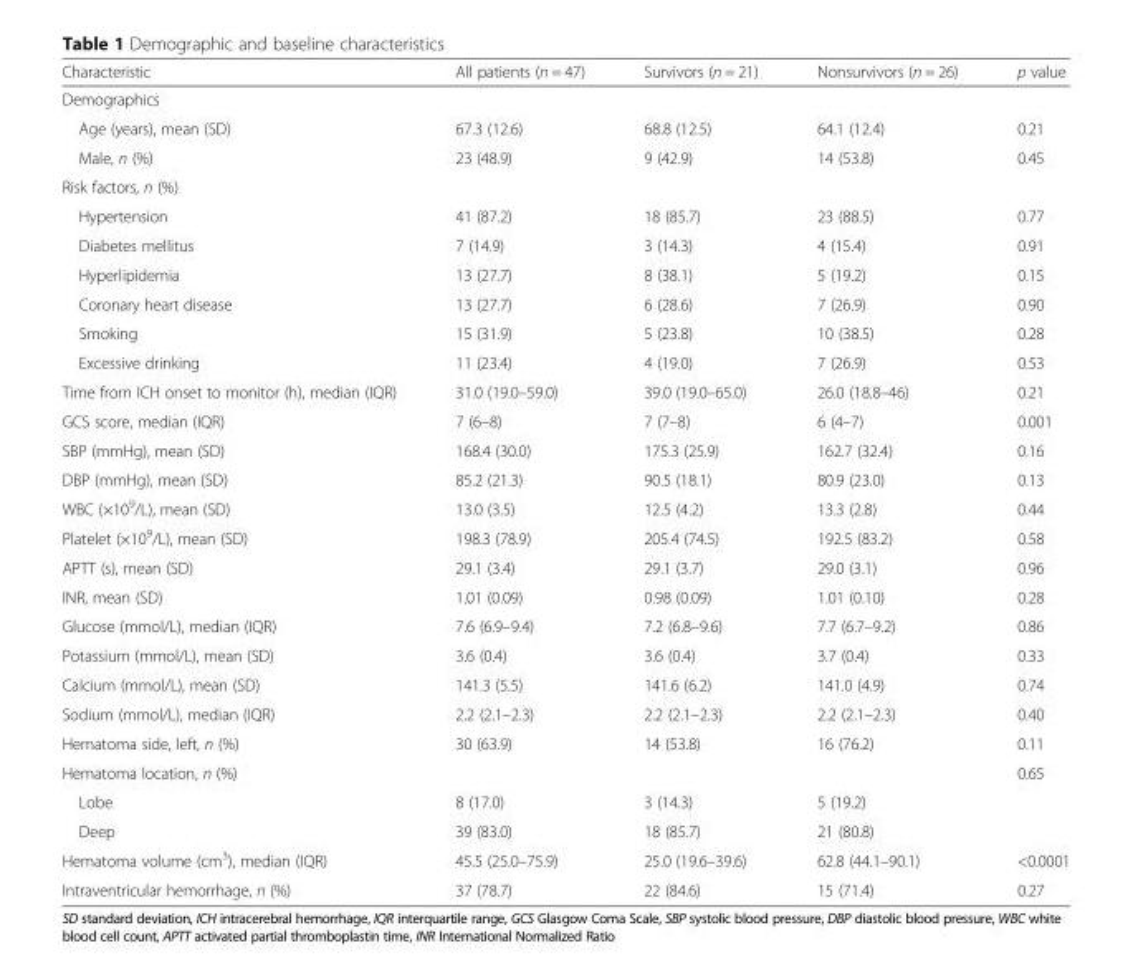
<table><thead><tr><td>Characteristic</td><td>All patients (n = 47)</td><td>Survivors (n = 21)</td><td>Nonsurvivors (n = 26)</td><td>p value</td></tr></thead><tbody><tr><td colspan="5">Demographics</td></tr><tr><td>Age (years), mean (SD)</td><td>67.3 (12.6)</td><td>68.8 (12.5)</td><td>64.1 (12.4)</td><td>0.21</td></tr><tr><td>Male, n (%)</td><td>23 (48.9)</td><td>9 (42.9)</td><td>14 (53.8)</td><td>0.45</td></tr><tr><td colspan="5">Risk factors, n (%)</td></tr><tr><td>Hypertension</td><td>41 (87.2)</td><td>18 (85.7)</td><td>23 (88.5)</td><td>0.77</td></tr><tr><td>Diabetes mellitus</td><td>7 (14.9)</td><td>3 (14.3)</td><td>4 (15.4)</td><td>0.91</td></tr><tr><td>Hyperlipidemia</td><td>13 (27.7)</td><td>8 (38.1)</td><td>5 (19.2)</td><td>0.15</td></tr><tr><td>Coronary heart disease</td><td>13 (27.7)</td><td>6 (28.6)</td><td>7 (26.9)</td><td>0.90</td></tr><tr><td>Smoking</td><td>15 (31.9)</td><td>5 (23.8)</td><td>10 (38.5)</td><td>0.28</td></tr><tr><td>Excessive drinking</td><td>11 (23.4)</td><td>4 (19.0)</td><td>7 (26.9)</td><td>0.53</td></tr><tr><td>Time from ICH onset to monitor (h), median (IQR)</td><td>31.0 (19.0–59.0)</td><td>39.0 (19.0–65.0)</td><td>26.0 (18.8–46)</td><td>0.21</td></tr><tr><td>GCS score, median (IQR)</td><td>7 (6–8)</td><td>7 (7–8)</td><td>6 (4–7)</td><td>0.001</td></tr><tr><td>SBP (mmHg), mean (SD)</td><td>168.4 (30.0)</td><td>175.3 (25.9)</td><td>162.7 (32.4)</td><td>0.16</td></tr><tr><td>DBP (mmHg), mean (SD)</td><td>85.2 (21.3)</td><td>90.5 (18.1)</td><td>80.9 (23.0)</td><td>0.13</td></tr><tr><td>WBC (×10<sup>9</sup>/L), mean (SD)</td><td>13.0 (3.5)</td><td>12.5 (4.2)</td><td>13.3 (2.8)</td><td>0.44</td></tr><tr><td>Platelet (×10<sup>9</sup>/L), mean (SD)</td><td>198.3 (78.9)</td><td>205.4 (74.5)</td><td>192.5 (83.2)</td><td>0.58</td></tr><tr><td>APTT (s), mean (SD)</td><td>29.1 (3.4)</td><td>29.1 (3.7)</td><td>29.0 (3.1)</td><td>0.96</td></tr><tr><td>INR, mean (SD)</td><td>1.01 (0.09)</td><td>0.98 (0.09)</td><td>1.01 (0.10)</td><td>0.28</td></tr><tr><td>Glucose (mmol/L), median (IQR)</td><td>7.6 (6.9–9.4)</td><td>7.2 (6.8–9.6)</td><td>7.7 (6.7–9.2)</td><td>0.86</td></tr><tr><td>Potassium (mmol/L), mean (SD)</td><td>3.6 (0.4)</td><td>3.6 (0.4)</td><td>3.7 (0.4)</td><td>0.33</td></tr><tr><td>Calcium (mmol/L), mean (SD)</td><td>141.3 (5.5)</td><td>141.6 (6.2)</td><td>141.0 (4.9)</td><td>0.74</td></tr><tr><td>Sodium (mmol/L), median (IQR)</td><td>2.2 (2.1–2.3)</td><td>2.2 (2.1–2.3)</td><td>2.2 (2.1–2.3)</td><td>0.40</td></tr><tr><td>Hematoma side, left, n (%)</td><td>30 (63.9)</td><td>14 (53.8)</td><td>16 (76.2)</td><td>0.11</td></tr><tr><td>Hematoma location, n (%)</td><td></td><td></td><td></td><td>0.65</td></tr><tr><td>Lobe</td><td>8 (17.0)</td><td>3 (14.3)</td><td>5 (19.2)</td><td rowspan="2"></td></tr><tr><td>Deep</td><td>39 (83.0)</td><td>18 (85.7)</td><td>21 (80.8)</td></tr><tr><td>Hematoma volume (cm<sup>3</sup>), median (IQR)</td><td>45.5 (25.0–75.9)</td><td>25.0 (19.6–39.6)</td><td>62.8 (44.1–90.1)</td><td>&lt;0.0001</td></tr><tr><td>Intraventricular hemorrhage, n (%)</td><td>37 (78.7)</td><td>22 (84.6)</td><td>15 (71.4)</td><td>0.27</td></tr></tbody></table>